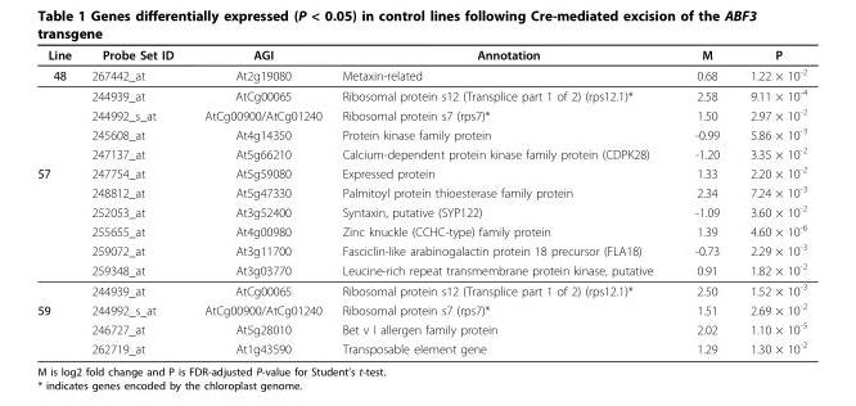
<table><thead><tr><td>Line</td><td>Probe Set ID</td><td>AGI</td><td>Annotation</td><td>M</td><td>P</td></tr></thead><tbody><tr><td>48</td><td>267442_at</td><td>At2g19080</td><td>Metaxin-related</td><td>0.68</td><td>1.22 × 10<sup>-2</sup></td></tr><tr><td rowspan="10"></td><td>244939_at</td><td>AtCg00065</td><td>Ribosomal protein s12 (Transplice part 1 of 2) (rps12.1)*</td><td>2.58</td><td>9.11 × 10<sup>-4</sup></td></tr><tr><td>244992_s_at</td><td>AtCg00900/AtCg01240</td><td>Ribosomal protein s7 (rps7)*</td><td>1.50</td><td>2.97 × 10<sup>-2</sup></td></tr><tr><td>245608_at</td><td>At4g14350</td><td>Protein kinase family protein</td><td>-0.99</td><td>5.86 × 10<sup>-3</sup></td></tr><tr><td>247137_at</td><td>At5g66210</td><td>Calcium-dependent protein kinase family protein (CDPK28)</td><td>-1.20</td><td>3.35 × 10<sup>-2</sup></td></tr><tr><td>247754_at</td><td>At5g59080</td><td>Expressed protein</td><td>1.33</td><td>2.20 × 10<sup>-2</sup></td></tr><tr><td>248812_at</td><td>At5g47330</td><td>Palmitoyl protein thioesterase family protein</td><td>2.34</td><td>7.24 × 10<sup>-3</sup></td></tr><tr><td>252053_at</td><td>At3g52400</td><td>Syntaxin, putative (SYP122)</td><td>-1.09</td><td>3.60 × 10<sup>-2</sup></td></tr><tr><td>255655_at</td><td>At4g00980</td><td>Zinc knuckle (CCHC-type) family protein</td><td>1.39</td><td>4.60 × 10<sup>-6</sup></td></tr><tr><td>259072_at</td><td>At3g11700</td><td>Fasciclin-like arabinogalactin protein 18 precursor (FLA18)</td><td>-0.73</td><td>2.29 × 10<sup>-3</sup></td></tr><tr><td>259348_at</td><td>At3g03770</td><td>Leucine-rich repeat transmembrane protein kinase, putative</td><td>0.91</td><td>1.82 × 10<sup>-2</sup></td></tr><tr><td rowspan="4"></td><td>244939_at</td><td>AtCg00065</td><td>Ribosomal protein s12 (Transplice part 1 of 2) (rps12.1)*</td><td>2.50</td><td>1.52 × 10<sup>-3</sup></td></tr><tr><td>244992_s_at</td><td>AtCg00900/AtCg01240</td><td>Ribosomal protein s7 (rps7)*</td><td>1.51</td><td>2.69 × 10<sup>-2</sup></td></tr><tr><td>246727_at</td><td>At5g28010</td><td>Bet v I allergen family protein</td><td>2.02</td><td>1.10 × 10<sup>-5</sup></td></tr><tr><td>262719_at</td><td>At1g43590</td><td>Transposable element gene</td><td>1.29</td><td>1.30 × 10<sup>-2</sup></td></tr></tbody></table>